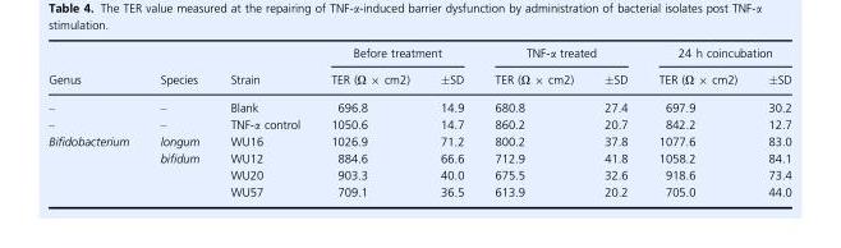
<table><thead><tr><td rowspan="2">Genus</td><td rowspan="2">Species</td><td rowspan="2">Strain</td><td colspan="2">Before treatment</td><td colspan="2">TNF-α treated</td><td colspan="2">24 h coincubation</td></tr><tr><td>TER (Ω × cm2)</td><td>±SD</td><td>TER (Ω × cm2)</td><td>±SD</td><td>TER (Ω × cm2)</td><td>±SD</td></tr></thead><tbody><tr><td>–</td><td>–</td><td>Blank</td><td>696.8</td><td>14.9</td><td>680.8</td><td>27.4</td><td>697.9</td><td>30.2</td></tr><tr><td>–</td><td>–</td><td>TNF-α control</td><td>1050.6</td><td>14.7</td><td>860.2</td><td>20.7</td><td>842.2</td><td>12.7</td></tr><tr><td rowspan="4">Bifidobacterium</td><td>longum</td><td>WU16</td><td>1026.9</td><td>71.2</td><td>800.2</td><td>37.8</td><td>1077.6</td><td>83.0</td></tr><tr><td rowspan="3">bifidum</td><td>WU12</td><td>884.6</td><td>66.6</td><td>712.9</td><td>41.8</td><td>1058.2</td><td>84.1</td></tr><tr><td>WU20</td><td>903.3</td><td>40.0</td><td>675.5</td><td>32.6</td><td>918.6</td><td>73.4</td></tr><tr><td>WU57</td><td>709.1</td><td>36.5</td><td>613.9</td><td>20.2</td><td>705.0</td><td>44.0</td></tr></tbody></table>